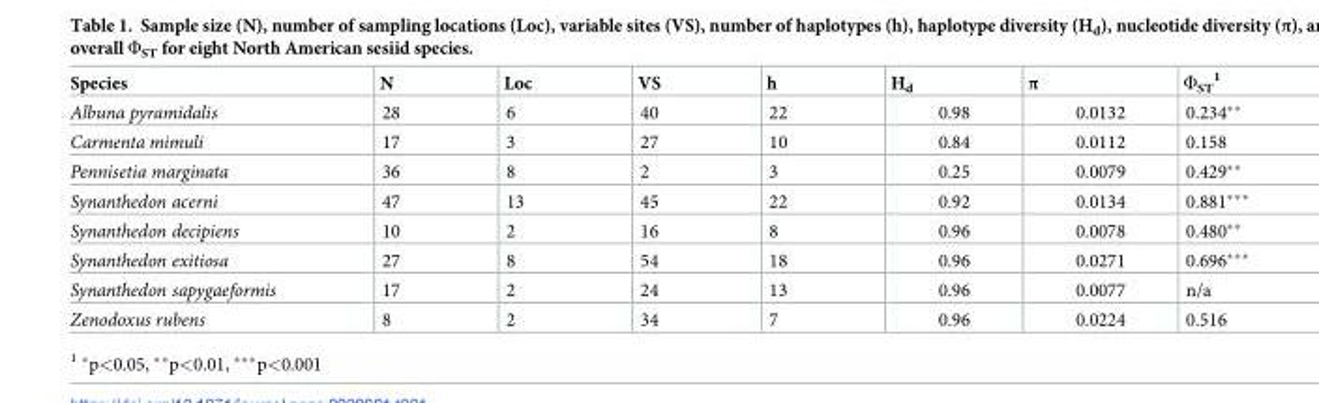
<table><thead><tr><td>Species</td><td>N</td><td>Loc</td><td>VS</td><td>h</td><td>H<sub>d</sub></td><td>π</td><td>Φ<sub>ST</sub> <sup>1</sup></td></tr></thead><tbody><tr><td>Albuna pyramidalis</td><td>28</td><td>6</td><td>40</td><td>22</td><td>0.98</td><td>0.0132</td><td>0.234**</td></tr><tr><td>Carmenta mimuli</td><td>17</td><td>3</td><td>27</td><td>10</td><td>0.84</td><td>0.0112</td><td>0.158</td></tr><tr><td>Pennisetia marginata</td><td>36</td><td>8</td><td>2</td><td>3</td><td>0.25</td><td>0.0079</td><td>0.429**</td></tr><tr><td>Synanthedon acerni</td><td>47</td><td>13</td><td>45</td><td>22</td><td>0.92</td><td>0.0134</td><td>0.881***</td></tr><tr><td>Synanthedon decipiens</td><td>10</td><td>2</td><td>16</td><td>8</td><td>0.96</td><td>0.0078</td><td>0.480**</td></tr><tr><td>Synanthedon exitiosa</td><td>27</td><td>8</td><td>54</td><td>18</td><td>0.96</td><td>0.0271</td><td>0.696***</td></tr><tr><td>Synanthedon sapygaeformis</td><td>17</td><td>2</td><td>24</td><td>13</td><td>0.96</td><td>0.0077</td><td>n/a</td></tr><tr><td>Zenodoxus rubens</td><td>8</td><td>2</td><td>34</td><td>7</td><td>0.96</td><td>0.0224</td><td>0.516</td></tr></tbody></table>